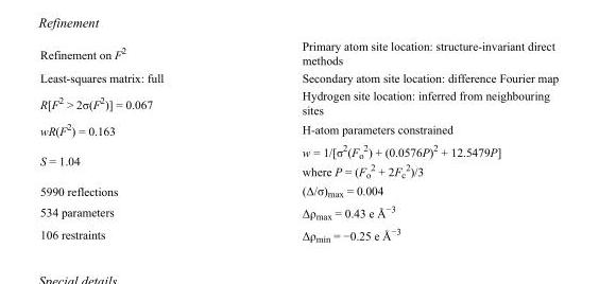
<table><tbody><tr><td>Refinement on F<sup>2</sup></td><td>Primary atom site location: structure-invariant direct methods</td></tr><tr><td>Least-squares matrix: full</td><td>Secondary atom site location: difference Fourier map</td></tr><tr><td>R[F<sup>2</sup> &gt; 2σ(F<sup>2</sup>)] = 0.067</td><td>Hydrogen site location: inferred from neighbouring sites</td></tr><tr><td>wR(F<sup>2</sup>) = 0.163</td><td>H-atom parameters constrained</td></tr><tr><td>S = 1.04</td><td>w = 1/[σ<sup>2</sup>(F<sub>o</sub> <sup>2</sup>) + (0.0576P)<sup>2</sup> + 12.5479P] where P = (F<sub>o</sub> <sup>2</sup> + 2F<sub>c</sub> <sup>2</sup>)/3</td></tr><tr><td>5990 reflections</td><td>(Δ/σ)<sub>max</sub> = 0.004</td></tr><tr><td>534 parameters</td><td>Δρ<sub>max</sub> = 0.43 e Å<sup>−3</sup></td></tr><tr><td>106 restraints</td><td>Δρ<sub>min</sub> = −0.25 e Å<sup>−3</sup></td></tr></tbody></table>